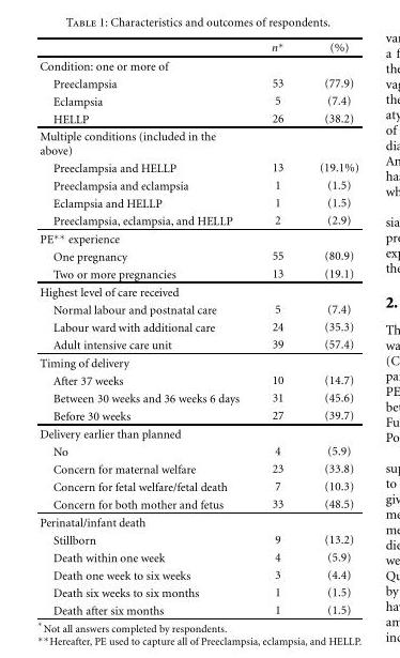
<table><thead><tr><td></td><td>n∗</td><td>(%)</td></tr></thead><tbody><tr><td colspan="3">Condition: one or more of</td></tr><tr><td>Preeclampsia</td><td>53</td><td>(77.9)</td></tr><tr><td>Eclampsia</td><td>5</td><td>(7.4)</td></tr><tr><td>HELLP</td><td>26</td><td>(38.2)</td></tr><tr><td colspan="3">Multiple conditions (included in the above)</td></tr><tr><td>Preeclampsia and HELLP</td><td>13</td><td>(19.1%)</td></tr><tr><td>Preeclampsia and eclampsia</td><td>1</td><td>(1.5)</td></tr><tr><td>Eclampsia and HELLP</td><td>1</td><td>(1.5)</td></tr><tr><td>Preeclampsia, eclampsia, and HELLP</td><td>2</td><td>(2.9)</td></tr><tr><td colspan="3">PE∗∗ experience</td></tr><tr><td>One pregnancy</td><td>55</td><td>(80.9)</td></tr><tr><td>Two or more pregnancies</td><td>13</td><td>(19.1)</td></tr><tr><td colspan="3">Highest level of care received</td></tr><tr><td>Normal labour and postnatal care</td><td>5</td><td>(7.4)</td></tr><tr><td>Labour ward with additional care</td><td>24</td><td>(35.3)</td></tr><tr><td>Adult intensive care unit</td><td>39</td><td>(57.4)</td></tr><tr><td colspan="3">Timing of delivery</td></tr><tr><td>After 37 weeks</td><td>10</td><td>(14.7)</td></tr><tr><td>Between 30 weeks and 36 weeks 6 days</td><td>31</td><td>(45.6)</td></tr><tr><td>Before 30 weeks</td><td>27</td><td>(39.7)</td></tr><tr><td colspan="3">Delivery earlier than planned</td></tr><tr><td>No</td><td>4</td><td>(5.9)</td></tr><tr><td>Concern for maternal welfare</td><td>23</td><td>(33.8)</td></tr><tr><td>Concern for fetal welfare/fetal death</td><td>7</td><td>(10.3)</td></tr><tr><td>Concern for both mother and fetus</td><td>33</td><td>(48.5)</td></tr><tr><td colspan="3">Perinatal/infant death</td></tr><tr><td>Stillborn</td><td>9</td><td>(13.2)</td></tr><tr><td>Death within one week</td><td>4</td><td>(5.9)</td></tr><tr><td>Death one week to six weeks</td><td>3</td><td>(4.4)</td></tr><tr><td>Death six weeks to six months</td><td>1</td><td>(1.5)</td></tr><tr><td>Death after six months</td><td>1</td><td>(1.5)</td></tr></tbody></table>